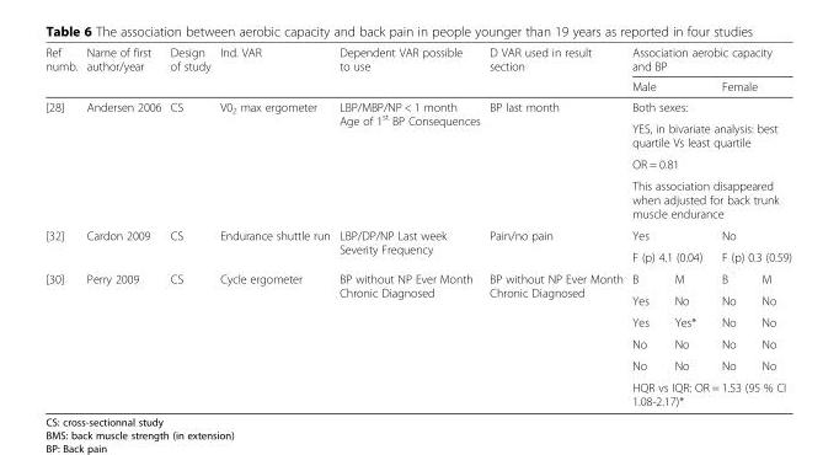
<table><thead><tr><td rowspan="2">Ref numb.</td><td rowspan="2">Name of first author/year</td><td rowspan="2">Design of study</td><td rowspan="2">Ind. VAR</td><td rowspan="2">Dependent VAR possible to use</td><td rowspan="2">D VAR used in result section</td><td colspan="4">Association aerobic capacity and BP</td></tr><tr><td colspan="2">Male</td><td colspan="2">Female</td></tr></thead><tbody><tr><td rowspan="4">[28]</td><td rowspan="4">Andersen 2006</td><td rowspan="4">CS</td><td rowspan="4">V0<sub>2</sub> max ergometer</td><td rowspan="4">LBP/MBP/NP &lt; 1 month Age of 1<sup>st</sup> BP Consequences</td><td rowspan="4">BP last month</td><td colspan="4">Both sexes:</td></tr><tr><td colspan="4">YES, in bivariate analysis: best quartile Vs least quartile</td></tr><tr><td colspan="4">OR = 0.81</td></tr><tr><td colspan="4">This association disappeared when adjusted for back trunk muscle endurance</td></tr><tr><td rowspan="2">[32]</td><td rowspan="2">Cardon 2009</td><td rowspan="2">CS</td><td rowspan="2">Endurance shuttle run</td><td rowspan="2">LBP/DP/NP Last week Severity Frequency</td><td rowspan="2">Pain/no pain</td><td colspan="2">Yes</td><td colspan="2">No</td></tr><tr><td colspan="2">F (p) 4.1 (0.04)</td><td colspan="2">F (p) 0.3 (0.59)</td></tr><tr><td rowspan="6">[30]</td><td rowspan="6">Perry 2009</td><td rowspan="6">CS</td><td rowspan="6">Cycle ergometer</td><td rowspan="6">BP without NP Ever Month Chronic Diagnosed</td><td rowspan="6">BP without NP Ever Month Chronic Diagnosed</td><td>B</td><td>M</td><td>B</td><td>M</td></tr><tr><td>Yes</td><td>No</td><td>No</td><td>No</td></tr><tr><td>Yes</td><td>Yes*</td><td>No</td><td>No</td></tr><tr><td>No</td><td>No</td><td>No</td><td>No</td></tr><tr><td>No</td><td>No</td><td>No</td><td>No</td></tr><tr><td colspan="4">HQR vs IQR: OR = 1.53 (95 % CI 1.08-2.17)*</td></tr></tbody></table>